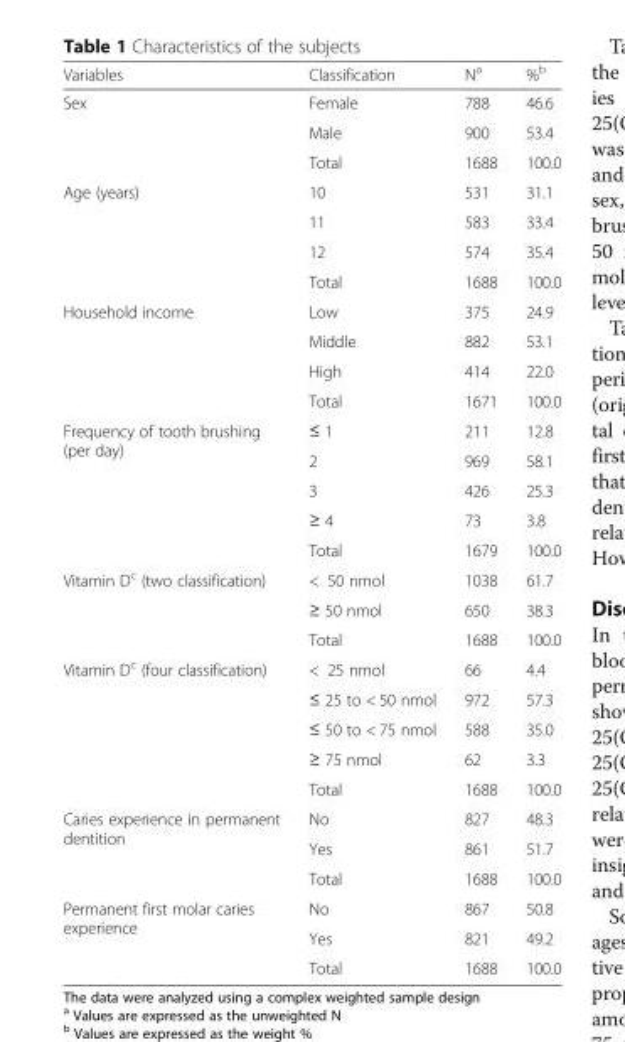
<table><thead><tr><td>Variables</td><td>Classification</td><td>N<sup>a</sup></td><td>%<sup>b</sup></td></tr></thead><tbody><tr><td rowspan="3">Sex</td><td>Female</td><td>788</td><td>46.6</td></tr><tr><td>Male</td><td>900</td><td>53.4</td></tr><tr><td>Total</td><td>1688</td><td>100.0</td></tr><tr><td rowspan="4">Age (years)</td><td>10</td><td>531</td><td>31.1</td></tr><tr><td>11</td><td>583</td><td>33.4</td></tr><tr><td>12</td><td>574</td><td>35.4</td></tr><tr><td>Total</td><td>1688</td><td>100.0</td></tr><tr><td rowspan="4">Household income</td><td>Low</td><td>375</td><td>24.9</td></tr><tr><td>Middle</td><td>882</td><td>53.1</td></tr><tr><td>High</td><td>414</td><td>22.0</td></tr><tr><td>Total</td><td>1671</td><td>100.0</td></tr><tr><td rowspan="5">Frequency of tooth brushing (per day)</td><td>≤ 1</td><td>211</td><td>12.8</td></tr><tr><td>2</td><td>969</td><td>58.1</td></tr><tr><td>3</td><td>426</td><td>25.3</td></tr><tr><td>≥ 4</td><td>73</td><td>3.8</td></tr><tr><td>Total</td><td>1679</td><td>100.0</td></tr><tr><td rowspan="3">Vitamin D<sup>c</sup> (two classification)</td><td>&lt; 50 nmol</td><td>1038</td><td>61.7</td></tr><tr><td>≥ 50 nmol</td><td>650</td><td>38.3</td></tr><tr><td>Total</td><td>1688</td><td>100.0</td></tr><tr><td rowspan="5">Vitamin D<sup>c</sup> (four classification)</td><td>&lt; 25 nmol</td><td>66</td><td>4.4</td></tr><tr><td>≤ 25 to &lt; 50 nmol</td><td>972</td><td>57.3</td></tr><tr><td>≤ 50 to &lt; 75 nmol</td><td>588</td><td>35.0</td></tr><tr><td>≥ 75 nmol</td><td>62</td><td>3.3</td></tr><tr><td>Total</td><td>1688</td><td>100.0</td></tr><tr><td rowspan="3">Caries experience in permanent dentition</td><td>No</td><td>827</td><td>48.3</td></tr><tr><td>Yes</td><td>861</td><td>51.7</td></tr><tr><td>Total</td><td>1688</td><td>100.0</td></tr><tr><td rowspan="3">Permanent first molar caries experience</td><td>No</td><td>867</td><td>50.8</td></tr><tr><td>Yes</td><td>821</td><td>49.2</td></tr><tr><td>Total</td><td>1688</td><td>100.0</td></tr></tbody></table>